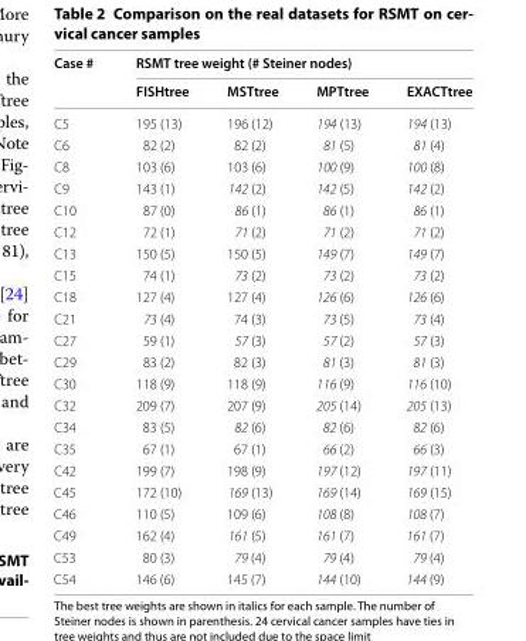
<table><thead><tr><td rowspan="2">Case #</td><td colspan="4">RSMT tree weight (# Steiner nodes)</td></tr><tr><td>FISHtree</td><td>MSTtree</td><td>MPTtree</td><td>EXACTtree</td></tr></thead><tbody><tr><td>C5</td><td>195 (13)</td><td>196 (12)</td><td>194 (13)</td><td>194 (13)</td></tr><tr><td>C6</td><td>82 (2)</td><td>82 (2)</td><td>81 (5)</td><td>81 (4)</td></tr><tr><td>C8</td><td>103 (6)</td><td>103 (6)</td><td>100 (9)</td><td>100 (8)</td></tr><tr><td>C9</td><td>143 (1)</td><td>142 (2)</td><td>142 (5)</td><td>142 (2)</td></tr><tr><td>C10</td><td>87 (0)</td><td>86 (1)</td><td>86 (1)</td><td>86 (1)</td></tr><tr><td>C12</td><td>72 (1)</td><td>71 (2)</td><td>71 (2)</td><td>71 (2)</td></tr><tr><td>C13</td><td>150 (5)</td><td>150 (5)</td><td>149 (7)</td><td>149 (7)</td></tr><tr><td>C15</td><td>74 (1)</td><td>73 (2)</td><td>73 (2)</td><td>73 (2)</td></tr><tr><td>C18</td><td>127 (4)</td><td>127 (4)</td><td>126 (6)</td><td>126 (6)</td></tr><tr><td>C21</td><td>73 (4)</td><td>74 (3)</td><td>73 (5)</td><td>73 (4)</td></tr><tr><td>C27</td><td>59 (1)</td><td>57 (3)</td><td>57 (2)</td><td>57 (3)</td></tr><tr><td>C29</td><td>83 (2)</td><td>82 (3)</td><td>81 (3)</td><td>81 (3)</td></tr><tr><td>C30</td><td>118 (9)</td><td>118 (9)</td><td>116 (9)</td><td>116 (10)</td></tr><tr><td>C32</td><td>209 (7)</td><td>207 (9)</td><td>205 (14)</td><td>205 (13)</td></tr><tr><td>C34</td><td>83 (5)</td><td>82 (6)</td><td>82 (6)</td><td>82 (6)</td></tr><tr><td>C35</td><td>67 (1)</td><td>67 (1)</td><td>66 (2)</td><td>66 (3)</td></tr><tr><td>C42</td><td>199 (7)</td><td>198 (9)</td><td>197 (12)</td><td>197 (11)</td></tr><tr><td>C45</td><td>172 (10)</td><td>169 (13)</td><td>169 (14)</td><td>169 (15)</td></tr><tr><td>C46</td><td>110 (5)</td><td>109 (6)</td><td>108 (8)</td><td>108 (7)</td></tr><tr><td>C49</td><td>162 (4)</td><td>161 (5)</td><td>161 (7)</td><td>161 (7)</td></tr><tr><td>C53</td><td>80 (3)</td><td>79 (4)</td><td>79 (4)</td><td>79 (4)</td></tr><tr><td>C54</td><td>146 (6)</td><td>145 (7)</td><td>144 (10)</td><td>144 (9)</td></tr></tbody></table>